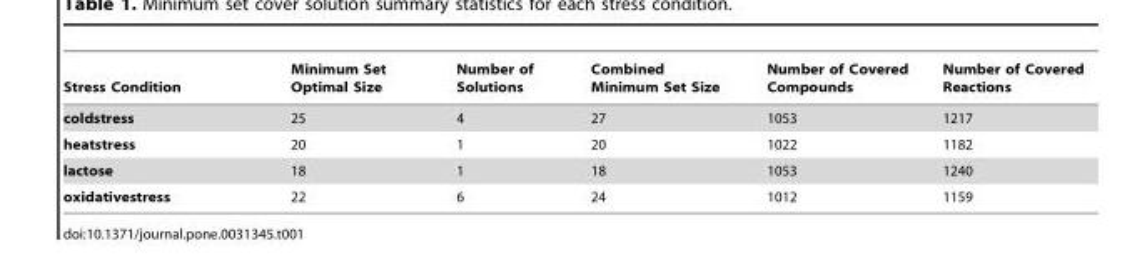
<table><thead><tr><td>Stress Condition</td><td>Minimum Set Optimal Size</td><td>Number of Solutions</td><td>Combined Minimum Set Size</td><td>Number of Covered Compounds</td><td>Number of Covered Reactions</td></tr></thead><tbody><tr><td>coldstress</td><td>25</td><td>4</td><td>27</td><td>1053</td><td>1217</td></tr><tr><td>heatstress</td><td>20</td><td>1</td><td>20</td><td>1022</td><td>1182</td></tr><tr><td>lactose</td><td>18</td><td>1</td><td>18</td><td>1053</td><td>1240</td></tr><tr><td>oxidativestress</td><td>22</td><td>6</td><td>24</td><td>1012</td><td>1159</td></tr></tbody></table>